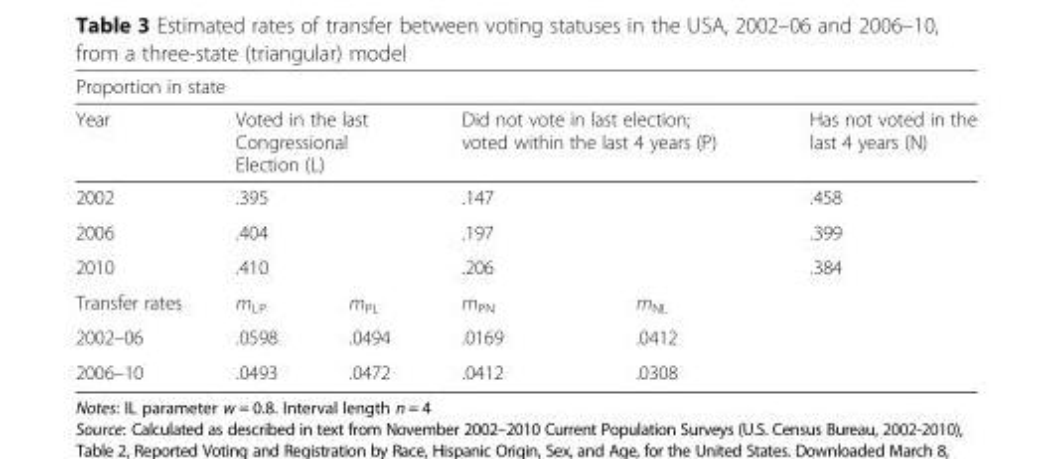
<table><thead><tr><td colspan="6">Proportion in state</td></tr><tr><td>Year</td><td colspan="2">Voted in the last Congressional Election (L)</td><td colspan="2">Did not vote in last election; voted within the last 4 years (P)</td><td>Has not voted in the last 4 years (N)</td></tr></thead><tbody><tr><td>2002</td><td colspan="2">.395</td><td colspan="2">.147</td><td>.458</td></tr><tr><td>2006</td><td colspan="2">.404</td><td colspan="2">.197</td><td>.399</td></tr><tr><td>2010</td><td colspan="2">.410</td><td colspan="2">.206</td><td>.384</td></tr><tr><td>Transfer rates</td><td>m<sub>LP</sub></td><td>m<sub>PL</sub></td><td>m<sub>PN</sub></td><td>m<sub>NL</sub></td><td></td></tr><tr><td>2002–06</td><td>.0598</td><td>.0494</td><td>.0169</td><td>.0412</td><td></td></tr><tr><td>2006–10</td><td>.0493</td><td>.0472</td><td>.0412</td><td>.0308</td><td></td></tr></tbody></table>